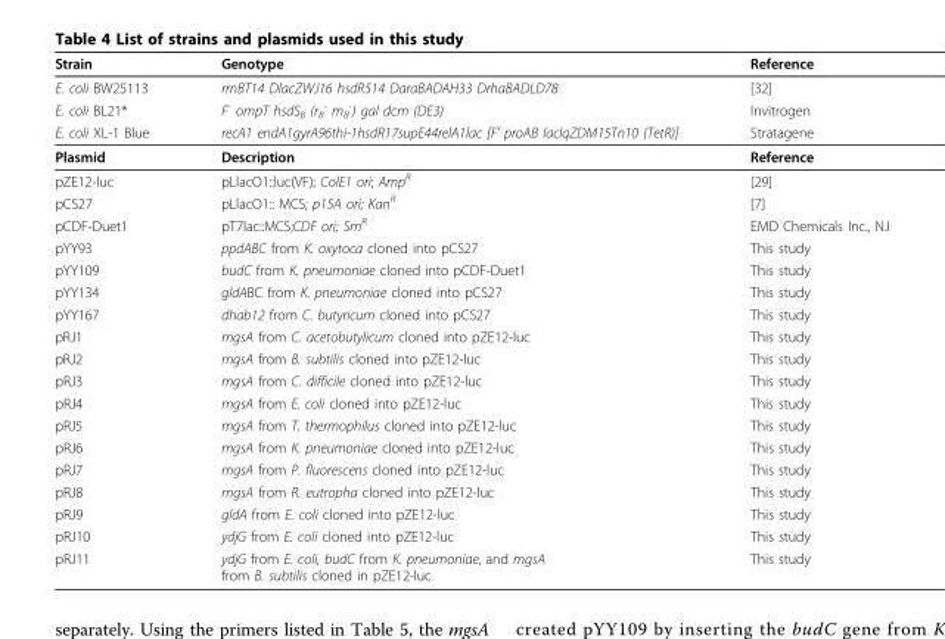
<table><thead><tr><td>Strain</td><td>Genotype</td><td>Reference</td></tr></thead><tbody><tr><td>E. coli BW25113</td><td>rrnBT14 DlacZWJ16 hsdR514 DaraBADAH33 DrhaBADLD78</td><td>[32]</td></tr><tr><td>E. coli BL21*</td><td>F<sup>-</sup> ompT hsdS<sub>B</sub> (r<sub>B</sub> <sup>-</sup> m<sub>B</sub> <sup>-</sup>) gal dcm (DE3)</td><td>Invitrogen</td></tr><tr><td>E. coli XL-1 Blue</td><td>recA1 endA1gyrA96thi-1hsdR17supE44relA1lac [F’ proAB lacIqZDM15Tn10 (TetR)]</td><td>Stratagene</td></tr><tr><td>Plasmid</td><td>Description</td><td>Reference</td></tr><tr><td>pZE12-luc</td><td>pLlacO1::luc(VF); ColE1 ori; Amp<sup>R</sup></td><td>[29]</td></tr><tr><td>pCS27</td><td>pLlacO1:: MCS; p15A ori; Kan<sup>R</sup></td><td>[7]</td></tr><tr><td>pCDF-Duet1</td><td>pT7lac::MCS;CDF ori; Sm<sup>R</sup></td><td>EMD Chemicals Inc., NJ</td></tr><tr><td>pYY93</td><td>ppdABC from K. oxytoca cloned into pCS27</td><td>This study</td></tr><tr><td>pYY109</td><td>budC from K. pneumoniae cloned into pCDF-Duet1</td><td>This study</td></tr><tr><td>pYY134</td><td>gldABC from K. pneumoniae cloned into pCS27</td><td>This study</td></tr><tr><td>pYY167</td><td>dhab12 from C. butyricum cloned into pCS27</td><td>This study</td></tr><tr><td>pRJ1</td><td>mgsA from C. acetobutylicum cloned into pZE12-luc</td><td>This study</td></tr><tr><td>pRJ2</td><td>mgsA from B. subtilis cloned into pZE12-luc</td><td>This study</td></tr><tr><td>pRJ3</td><td>mgsA from C. difficile cloned into pZE12-luc</td><td>This study</td></tr><tr><td>pRJ4</td><td>mgsA from E. coli cloned into pZE12-luc</td><td>This study</td></tr><tr><td>pRJ5</td><td>mgsA from T. thermophilus cloned into pZE12-luc</td><td>This study</td></tr><tr><td>pRJ6</td><td>mgsA from K. pneumoniae cloned into pZE12-luc</td><td>This study</td></tr><tr><td>pRJ7</td><td>mgsA from P. fluorescens cloned into pZE12-luc</td><td>This study</td></tr><tr><td>pRJ8</td><td>mgsA from R. eutropha cloned into pZE12-luc</td><td>This study</td></tr><tr><td>pRJ9</td><td>gldA from E. coli cloned into pZE12-luc</td><td>This study</td></tr><tr><td>pRJ10</td><td>ydjG from E. coli cloned into pZE12-luc</td><td>This study</td></tr><tr><td>pRJ11</td><td>ydjG from E. coli, budC from K. pneumoniae, and mgsA from B. subtilis cloned in pZE12-luc</td><td>This study</td></tr></tbody></table>